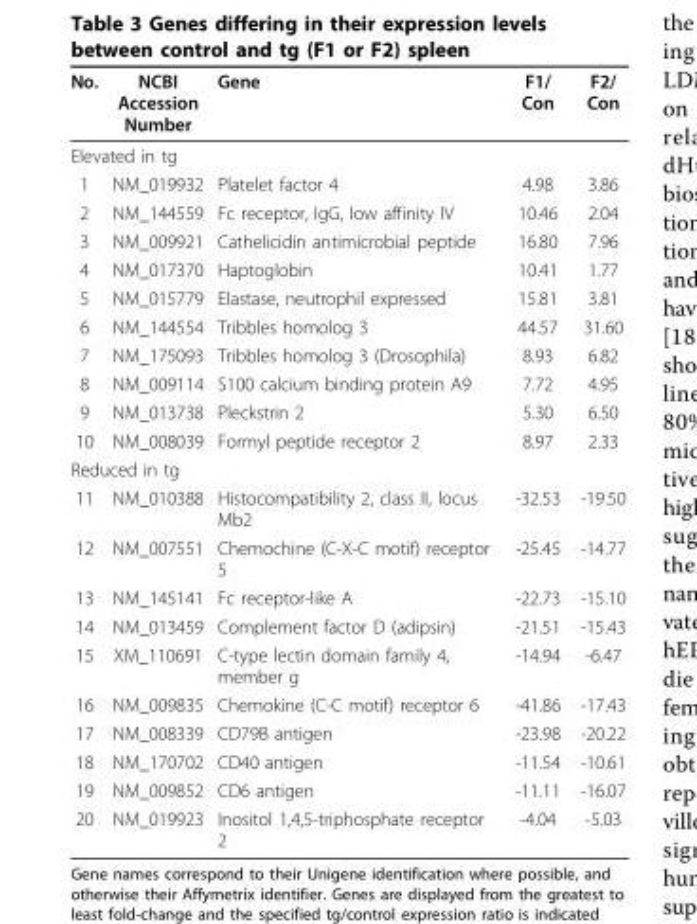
<table><thead><tr><td>No.</td><td>NCBI Accession Number</td><td>Gene</td><td>F1/ Con</td><td>F2/ Con</td></tr></thead><tbody><tr><td colspan="5">Elevated in tg</td></tr><tr><td>1</td><td>NM_019932</td><td>Platelet factor 4</td><td>4.98</td><td>3.86</td></tr><tr><td>2</td><td>NM_144559</td><td>Fc receptor, IgG, low affinity IV</td><td>10.46</td><td>2.04</td></tr><tr><td>3</td><td>NM_009921</td><td>Cathelicidin antimicrobial peptide</td><td>16.80</td><td>7.96</td></tr><tr><td>4</td><td>NM_017370</td><td>Haptoglobin</td><td>10.41</td><td>1.77</td></tr><tr><td>5</td><td>NM_015779</td><td>Elastase, neutrophil expressed</td><td>15.81</td><td>3.81</td></tr><tr><td>6</td><td>NM_144554</td><td>Tribbles homolog 3</td><td>44.57</td><td>31.60</td></tr><tr><td>7</td><td>NM_175093</td><td>Tribbles homolog 3 (Drosophila)</td><td>8.93</td><td>6.82</td></tr><tr><td>8</td><td>NM_009114</td><td>S100 calcium binding protein A9</td><td>7.72</td><td>4.95</td></tr><tr><td>9</td><td>NM_013738</td><td>Pleckstrin 2</td><td>5.30</td><td>6.50</td></tr><tr><td>10</td><td>NM_008039</td><td>Formyl peptide receptor 2</td><td>8.97</td><td>2.33</td></tr><tr><td colspan="5">Reduced in tg</td></tr><tr><td>11</td><td>NM_010388</td><td>Histocompatibility 2, class II, locus Mb2</td><td>-32.53</td><td>-19.50</td></tr><tr><td>12</td><td>NM_007551</td><td>Chemochine (C-X-C motif) receptor 5</td><td>-25.45</td><td>-14.77</td></tr><tr><td>13</td><td>NM_145141</td><td>Fc receptor-like A</td><td>-22.73</td><td>-15.10</td></tr><tr><td>14</td><td>NM_013459</td><td>Complement factor D (adipsin)</td><td>-21.51</td><td>-15.43</td></tr><tr><td>15</td><td>XM_110691</td><td>C-type lectin domain family 4, member g</td><td>-14.94</td><td>-6.47</td></tr><tr><td>16</td><td>NM_009835</td><td>Chemokine (C-C motif) receptor 6</td><td>-41.86</td><td>-17.43</td></tr><tr><td>17</td><td>NM_008339</td><td>CD79B antigen</td><td>-23.98</td><td>-20.22</td></tr><tr><td>18</td><td>NM_170702</td><td>CD40 antigen</td><td>-11.54</td><td>-10.61</td></tr><tr><td>19</td><td>NM_009852</td><td>CD6 antigen</td><td>-11.11</td><td>-16.07</td></tr><tr><td>20</td><td>NM_019923</td><td>Inositol 1,4,5-triphosphate receptor 2</td><td>-4.04</td><td>-5.03</td></tr></tbody></table>